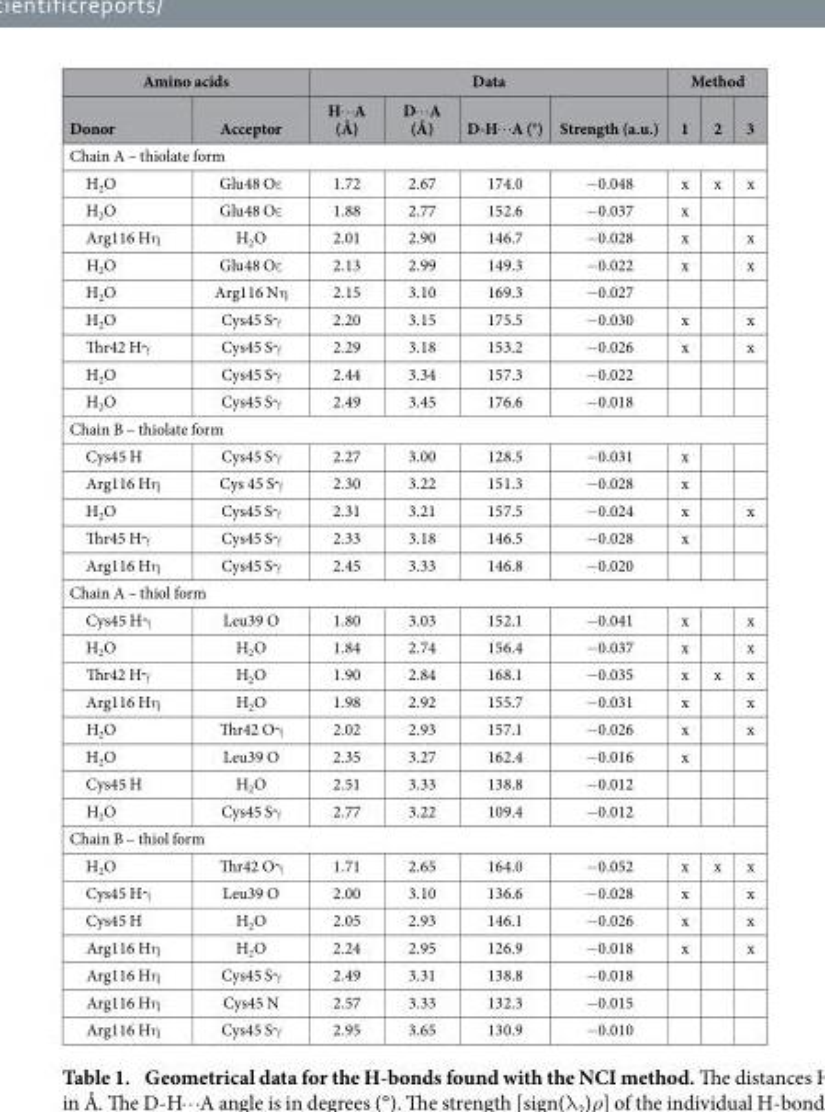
<table><thead><tr><td colspan="2">Amino acids</td><td colspan="4">Data</td><td colspan="3">Method</td></tr><tr><td>Donor</td><td>Acceptor</td><td>HA (Å)</td><td>DA (Å)</td><td>D-HA (°)</td><td>Strength (a.u.)</td><td>1</td><td>2</td><td>3</td></tr></thead><tbody><tr><td colspan="9">Chain A – thiolate form</td></tr><tr><td>H<sub>2</sub>O</td><td>Glu48 Oε</td><td>1.72</td><td>2.67</td><td>174.0</td><td>− 0.048</td><td>x</td><td>x</td><td>x</td></tr><tr><td>H<sub>2</sub>O</td><td>Glu48 Oε</td><td>1.88</td><td>2.77</td><td>152.6</td><td>− 0.037</td><td>x</td><td></td><td></td></tr><tr><td>Arg116 Hη</td><td>H<sub>2</sub>O</td><td>2.01</td><td>2.90</td><td>146.7</td><td>− 0.028</td><td>x</td><td></td><td>x</td></tr><tr><td>H<sub>2</sub>O</td><td>Glu48 Oε</td><td>2.13</td><td>2.99</td><td>149.3</td><td>− 0.022</td><td>x</td><td></td><td>x</td></tr><tr><td>H<sub>2</sub>O</td><td>Arg116 Nη</td><td>2.15</td><td>3.10</td><td>169.3</td><td>− 0.027</td><td></td><td></td><td></td></tr><tr><td>H<sub>2</sub>O</td><td>Cys45 Sγ</td><td>2.20</td><td>3.15</td><td>175.5</td><td>− 0.030</td><td>x</td><td></td><td>x</td></tr><tr><td>Thr42 Hγ</td><td>Cys45 Sγ</td><td>2.29</td><td>3.18</td><td>153.2</td><td>− 0.026</td><td>x</td><td></td><td>x</td></tr><tr><td>H<sub>2</sub>O</td><td>Cys45 Sγ</td><td>2.44</td><td>3.34</td><td>157.3</td><td>− 0.022</td><td></td><td></td><td></td></tr><tr><td>H<sub>2</sub>O</td><td>Cys45 Sγ</td><td>2.49</td><td>3.45</td><td>176.6</td><td>− 0.018</td><td></td><td></td><td></td></tr><tr><td colspan="9">Chain B – thiolate form</td></tr><tr><td>Cys45 H</td><td>Cys45 Sγ</td><td>2.27</td><td>3.00</td><td>128.5</td><td>− 0.031</td><td>x</td><td></td><td></td></tr><tr><td>Arg116 Hη</td><td>Cys 45 Sγ</td><td>2.30</td><td>3.22</td><td>151.3</td><td>− 0.028</td><td>x</td><td></td><td></td></tr><tr><td>H<sub>2</sub>O</td><td>Cys45 Sγ</td><td>2.31</td><td>3.21</td><td>157.5</td><td>− 0.024</td><td>x</td><td></td><td>x</td></tr><tr><td>Thr45 Hγ</td><td>Cys45 Sγ</td><td>2.33</td><td>3.18</td><td>146.5</td><td>− 0.028</td><td>x</td><td></td><td></td></tr><tr><td>Arg116 Hη</td><td>Cys45 Sγ</td><td>2.45</td><td>3.33</td><td>146.8</td><td>− 0.020</td><td></td><td></td><td></td></tr><tr><td colspan="9">Chain A – thiol form</td></tr><tr><td>Cys45 Hγ</td><td>Leu39 O</td><td>1.80</td><td>3.03</td><td>152.1</td><td>− 0.041</td><td>x</td><td></td><td>x</td></tr><tr><td>H<sub>2</sub>O</td><td>H<sub>2</sub>O</td><td>1.84</td><td>2.74</td><td>156.4</td><td>− 0.037</td><td>x</td><td></td><td>x</td></tr><tr><td>Thr42 Hγ</td><td>H<sub>2</sub>O</td><td>1.90</td><td>2.84</td><td>168.1</td><td>− 0.035</td><td>x</td><td>x</td><td>x</td></tr><tr><td>Arg116 Hη</td><td>H<sub>2</sub>O</td><td>1.98</td><td>2.92</td><td>155.7</td><td>− 0.031</td><td>x</td><td></td><td>x</td></tr><tr><td>H<sub>2</sub>O</td><td>Thr42 Oγ</td><td>2.02</td><td>2.93</td><td>157.1</td><td>− 0.026</td><td>x</td><td></td><td>x</td></tr><tr><td>H<sub>2</sub>O</td><td>Leu39 O</td><td>2.35</td><td>3.27</td><td>162.4</td><td>− 0.016</td><td>x</td><td></td><td></td></tr><tr><td>Cys45 H</td><td>H<sub>2</sub>O</td><td>2.51</td><td>3.33</td><td>138.8</td><td>− 0.012</td><td></td><td></td><td></td></tr><tr><td>H<sub>2</sub>O</td><td>Cys45 Sγ</td><td>2.77</td><td>3.22</td><td>109.4</td><td>− 0.012</td><td></td><td></td><td></td></tr><tr><td colspan="9">Chain B – thiol form</td></tr><tr><td>H<sub>2</sub>O</td><td>Thr42 Oγ</td><td>1.71</td><td>2.65</td><td>164.0</td><td>− 0.052</td><td>x</td><td>x</td><td>x</td></tr><tr><td>Cys45 Hγ</td><td>Leu39 O</td><td>2.00</td><td>3.10</td><td>136.6</td><td>− 0.028</td><td>x</td><td></td><td>x</td></tr><tr><td>Cys45 H</td><td>H<sub>2</sub>O</td><td>2.05</td><td>2.93</td><td>146.1</td><td>− 0.026</td><td>x</td><td></td><td>x</td></tr><tr><td>Arg116 Hη</td><td>H<sub>2</sub>O</td><td>2.24</td><td>2.95</td><td>126.9</td><td>− 0.018</td><td>x</td><td></td><td>x</td></tr><tr><td>Arg116 Hη</td><td>Cys45 Sγ</td><td>2.49</td><td>3.31</td><td>138.8</td><td>− 0.018</td><td></td><td></td><td></td></tr><tr><td>Arg116 Hη</td><td>Cys45 N</td><td>2.57</td><td>3.33</td><td>132.3</td><td>− 0.015</td><td></td><td></td><td></td></tr><tr><td>Arg116 Hη</td><td>Cys45 Sγ</td><td>2.95</td><td>3.65</td><td>130.9</td><td>− 0.010</td><td></td><td></td><td></td></tr></tbody></table>